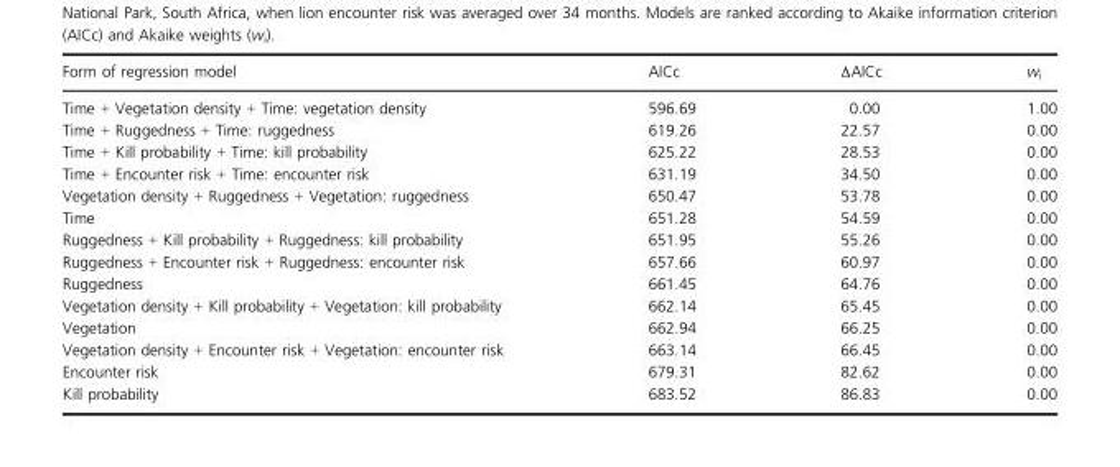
<table><thead><tr><td>Form of regression model</td><td>AICc</td><td>ΔAICc</td><td>w<sub>i</sub></td></tr></thead><tbody><tr><td>Time + Vegetation density + Time: vegetation density</td><td>596.69</td><td>0.00</td><td>1.00</td></tr><tr><td>Time + Ruggedness + Time: ruggedness</td><td>619.26</td><td>22.57</td><td>0.00</td></tr><tr><td>Time + Kill probability + Time: kill probability</td><td>625.22</td><td>28.53</td><td>0.00</td></tr><tr><td>Time + Encounter risk + Time: encounter risk</td><td>631.19</td><td>34.50</td><td>0.00</td></tr><tr><td>Vegetation density + Ruggedness + Vegetation: ruggedness</td><td>650.47</td><td>53.78</td><td>0.00</td></tr><tr><td>Time</td><td>651.28</td><td>54.59</td><td>0.00</td></tr><tr><td>Ruggedness + Kill probability + Ruggedness: kill probability</td><td>651.95</td><td>55.26</td><td>0.00</td></tr><tr><td>Ruggedness + Encounter risk + Ruggedness: encounter risk</td><td>657.66</td><td>60.97</td><td>0.00</td></tr><tr><td>Ruggedness</td><td>661.45</td><td>64.76</td><td>0.00</td></tr><tr><td>Vegetation density + Kill probability + Vegetation: kill probability</td><td>662.14</td><td>65.45</td><td>0.00</td></tr><tr><td>Vegetation</td><td>662.94</td><td>66.25</td><td>0.00</td></tr><tr><td>Vegetation density + Encounter risk + Vegetation: encounter risk</td><td>663.14</td><td>66.45</td><td>0.00</td></tr><tr><td>Encounter risk</td><td>679.31</td><td>82.62</td><td>0.00</td></tr><tr><td>Kill probability</td><td>683.52</td><td>86.83</td><td>0.00</td></tr></tbody></table>